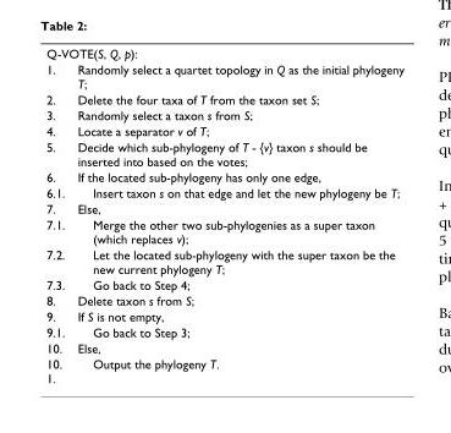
<table><tbody><tr><td colspan="2">Q-VOTE(S, Q, p):</td></tr><tr><td>1.</td><td>Randomly select a quartet topology in Q as the initial phylogeny T;</td></tr><tr><td>2.</td><td>Delete the four taxa of T from the taxon set S;</td></tr><tr><td>3.</td><td>Randomly select a taxon s from S;</td></tr><tr><td>4.</td><td>Locate a separator v of T;</td></tr><tr><td>5.</td><td>Decide which sub-phylogeny of T - {v} taxon s should be inserted into based on the votes;</td></tr><tr><td>6.</td><td>If the located sub-phylogeny has only one edge,</td></tr><tr><td>6.1.</td><td>Insert taxon s on that edge and let the new phylogeny be T;</td></tr><tr><td>7.</td><td>Else,</td></tr><tr><td>7.1.</td><td>Merge the other two sub-phylogenies as a super taxon (which replaces v);</td></tr><tr><td>7.2.</td><td>Let the located sub-phylogeny with the super taxon be the new current phylogeny T;</td></tr><tr><td>7.3.</td><td>Go back to Step 4;</td></tr><tr><td>8.</td><td>Delete taxon s from S;</td></tr><tr><td>9.</td><td>If S is not empty,</td></tr><tr><td>9.1.</td><td>Go back to Step 3;</td></tr><tr><td>10.</td><td>Else,</td></tr><tr><td>10. 1.</td><td>Output the phylogeny T.</td></tr></tbody></table>